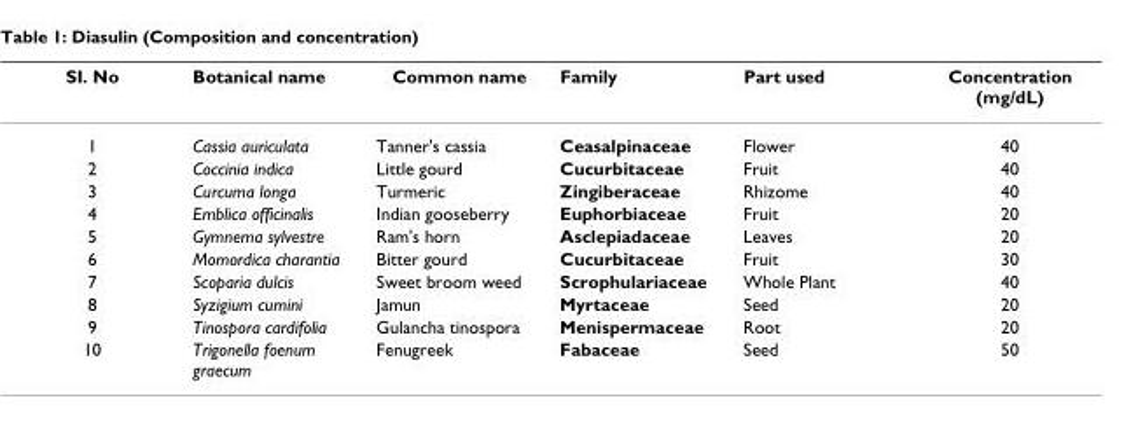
<table><thead><tr><td>SI. No</td><td>Botanical name</td><td>Common name</td><td>Family</td><td>Part used</td><td>Concentration (mg/dL)</td></tr></thead><tbody><tr><td>1</td><td>Cassia auriculata</td><td>Tanner&#x27;s cassia</td><td>Ceasalpinaceae</td><td>Flower</td><td>40</td></tr><tr><td>2</td><td>Coccinia indica</td><td>Little gourd</td><td>Cucurbitaceae</td><td>Fruit</td><td>40</td></tr><tr><td>3</td><td>Curcuma longa</td><td>Turmeric</td><td>Zingiberaceae</td><td>Rhizome</td><td>40</td></tr><tr><td>4</td><td>Emblica officinalis</td><td>Indian gooseberry</td><td>Euphorbiaceae</td><td>Fruit</td><td>20</td></tr><tr><td>5</td><td>Gymnema sylvestre</td><td>Ram&#x27;s horn</td><td>Asclepiadaceae</td><td>Leaves</td><td>20</td></tr><tr><td>6</td><td>Momordica charantia</td><td>Bitter gourd</td><td>Cucurbitaceae</td><td>Fruit</td><td>30</td></tr><tr><td>7</td><td>Scoparia dulcis</td><td>Sweet broom weed</td><td>Scrophulariaceae</td><td>Whole Plant</td><td>40</td></tr><tr><td>8</td><td>Syzigium cumini</td><td>Jamun</td><td>Myrtaceae</td><td>Seed</td><td>20</td></tr><tr><td>9</td><td>Tinospora cardifolia</td><td>Gulancha tinospora</td><td>Menispermaceae</td><td>Root</td><td>20</td></tr><tr><td>10</td><td>Trigonella foenum graecum</td><td>Fenugreek</td><td>Fabaceae</td><td>Seed</td><td>50</td></tr></tbody></table>